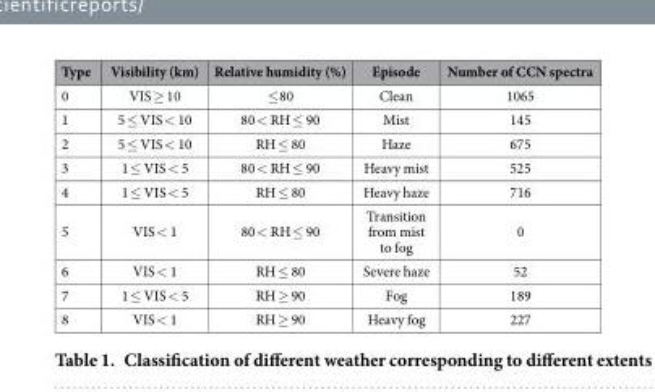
<table><thead><tr><td>Type</td><td>Visibility (km)</td><td>Relative humidity (%)</td><td>Episode</td><td>Number of CCN spectra</td></tr></thead><tbody><tr><td>0</td><td>VIS ≥ 10</td><td>≤ 80</td><td>Clean</td><td>1065</td></tr><tr><td>1</td><td>5 ≤ VIS &lt; 10</td><td>80 &lt; RH ≤ 90</td><td>Mist</td><td>145</td></tr><tr><td>2</td><td>5 ≤ VIS &lt; 10</td><td>RH ≤ 80</td><td>Haze</td><td>675</td></tr><tr><td>3</td><td>1 ≤ VIS &lt; 5</td><td>80 &lt; RH ≤ 90</td><td>Heavy mist</td><td>525</td></tr><tr><td>4</td><td>1 ≤ VIS &lt; 5</td><td>RH ≤ 80</td><td>Heavy haze</td><td>716</td></tr><tr><td>5</td><td>VIS &lt; 1</td><td>80 &lt; RH ≤ 90</td><td>Transition from mist to fog</td><td>0</td></tr><tr><td>6</td><td>VIS &lt; 1</td><td>RH ≤ 80</td><td>Severe haze</td><td>52</td></tr><tr><td>7</td><td>1 ≤ VIS &lt; 5</td><td>RH ≥ 90</td><td>Fog</td><td>189</td></tr><tr><td>8</td><td>VIS &lt; 1</td><td>RH ≥ 90</td><td>Heavy fog</td><td>227</td></tr></tbody></table>